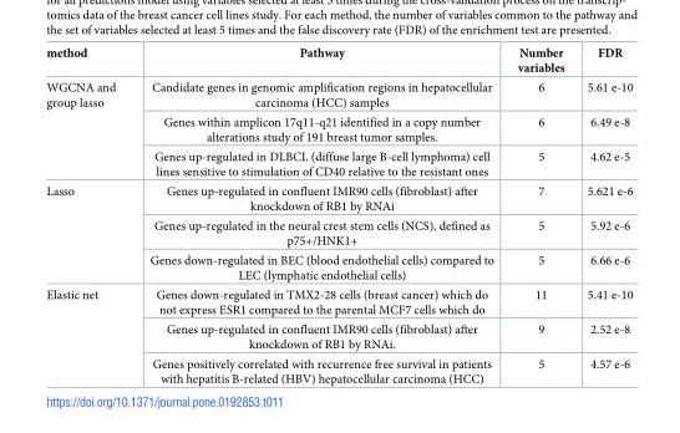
<table><thead><tr><td>method</td><td>Pathway</td><td>Number variables</td><td>FDR</td></tr></thead><tbody><tr><td rowspan="3">WGCNA and group lasso</td><td>Candidate genes in genomic amplification regions in hepatocellular carcinoma (HCC) samples</td><td>6</td><td>5.61 e-10</td></tr><tr><td>Genes within amplicon 17q11-q21 identified in a copy number alterations study of 191 breast tumor samples.</td><td>6</td><td>6.49 e-8</td></tr><tr><td>Genes up-regulated in DLBCL (diffuse large B-cell lymphoma) cell lines sensitive to stimulation of CD40 relative to the resistant ones</td><td>5</td><td>4.62 e-5</td></tr><tr><td rowspan="3">Lasso</td><td>Genes up-regulated in confluent IMR90 cells (fibroblast) after knockdown of RB1 by RNAi</td><td>7</td><td>5.621 e-6</td></tr><tr><td>Genes up-regulated in the neural crest stem cells (NCS), defined as p75+/HNK1+</td><td>5</td><td>5.92 e-6</td></tr><tr><td>Genes down-regulated in BEC (blood endothelial cells) compared to LEC (lymphatic endothelial cells)</td><td>5</td><td>6.66 e-6</td></tr><tr><td rowspan="3">Elastic net</td><td>Genes down-regulated in TMX2-28 cells (breast cancer) which do not express ESR1 compared to the parental MCF7 cells which do</td><td>11</td><td>5.41 e-10</td></tr><tr><td>Genes up-regulated in confluent IMR90 cells (fibroblast) after knockdown of RB1 by RNAi.</td><td>9</td><td>2.52 e-8</td></tr><tr><td>Genes positively correlated with recurrence free survival in patients with hepatitis B-related (HBV) hepatocellular carcinoma (HCC)</td><td>5</td><td>4.57 e-6</td></tr></tbody></table>